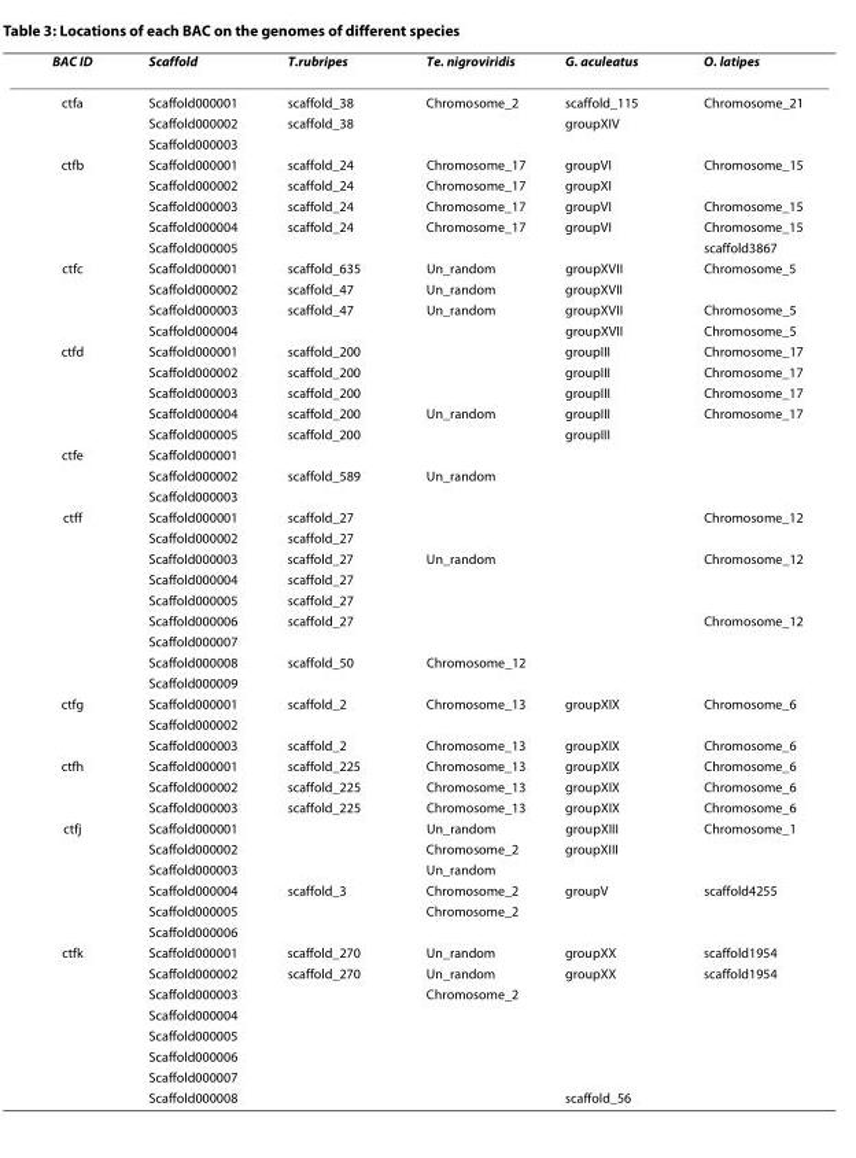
<table><thead><tr><td>BAC ID</td><td>Scaffold</td><td>T.rubripes</td><td>Te. nigroviridis</td><td>G. aculeatus</td><td>O. latipes</td></tr></thead><tbody><tr><td rowspan="3">ctfa</td><td>Scaffold000001</td><td>scaffold_38</td><td>Chromosome_2</td><td>scaffold_115</td><td>Chromosome_21</td></tr><tr><td>Scaffold000002</td><td>scaffold_38</td><td></td><td>groupXIV</td><td></td></tr><tr><td>Scaffold000003</td><td></td><td></td><td></td><td></td></tr><tr><td rowspan="5">ctfb</td><td>Scaffold000001</td><td>scaffold_24</td><td>Chromosome_17</td><td>groupVI</td><td>Chromosome_15</td></tr><tr><td>Scaffold000002</td><td>scaffold_24</td><td>Chromosome_17</td><td>groupXI</td><td></td></tr><tr><td>Scaffold000003</td><td>scaffold_24</td><td>Chromosome_17</td><td>groupVI</td><td>Chromosome_15</td></tr><tr><td>Scaffold000004</td><td>scaffold_24</td><td>Chromosome_17</td><td>groupVI</td><td>Chromosome_15</td></tr><tr><td>Scaffold000005</td><td></td><td></td><td></td><td>scaffold3867</td></tr><tr><td rowspan="4">ctfc</td><td>Scaffold000001</td><td>scaffold_635</td><td>Un_random</td><td>groupXVII</td><td>Chromosome_5</td></tr><tr><td>Scaffold000002</td><td>scaffold_47</td><td>Un_random</td><td>groupXVII</td><td></td></tr><tr><td>Scaffold000003</td><td>scaffold_47</td><td>Un_random</td><td>groupXVII</td><td>Chromosome_5</td></tr><tr><td>Scaffold000004</td><td></td><td></td><td>groupXVII</td><td>Chromosome_5</td></tr><tr><td rowspan="5">ctfd</td><td>Scaffold000001</td><td>scaffold_200</td><td></td><td>groupIII</td><td>Chromosome_17</td></tr><tr><td>Scaffold000002</td><td>scaffold_200</td><td></td><td>groupIII</td><td>Chromosome_17</td></tr><tr><td>Scaffold000003</td><td>scaffold_200</td><td></td><td>groupIII</td><td>Chromosome_17</td></tr><tr><td>Scaffold000004</td><td>scaffold_200</td><td>Un_random</td><td>groupIII</td><td>Chromosome_17</td></tr><tr><td>Scaffold000005</td><td>scaffold_200</td><td></td><td>groupIII</td><td></td></tr><tr><td rowspan="3">ctfe</td><td>Scaffold000001</td><td></td><td></td><td></td><td></td></tr><tr><td>Scaffold000002</td><td>scaffold_589</td><td>Un_random</td><td></td><td></td></tr><tr><td>Scaffold000003</td><td></td><td></td><td></td><td></td></tr><tr><td rowspan="9">ctff</td><td>Scaffold000001</td><td>scaffold_27</td><td></td><td></td><td>Chromosome_12</td></tr><tr><td>Scaffold000002</td><td>scaffold_27</td><td></td><td></td><td></td></tr><tr><td>Scaffold000003</td><td>scaffold_27</td><td>Un_random</td><td></td><td>Chromosome_12</td></tr><tr><td>Scaffold000004</td><td>scaffold_27</td><td></td><td></td><td></td></tr><tr><td>Scaffold000005</td><td>scaffold_27</td><td></td><td></td><td></td></tr><tr><td>Scaffold000006</td><td>scaffold_27</td><td></td><td></td><td>Chromosome_12</td></tr><tr><td>Scaffold000007</td><td></td><td></td><td></td><td></td></tr><tr><td>Scaffold000008</td><td>scaffold_50</td><td>Chromosome_12</td><td></td><td></td></tr><tr><td>Scaffold000009</td><td></td><td></td><td></td><td></td></tr><tr><td rowspan="3">ctfg</td><td>Scaffold000001</td><td>scaffold_2</td><td>Chromosome_13</td><td>groupXIX</td><td>Chromosome_6</td></tr><tr><td>Scaffold000002</td><td></td><td></td><td></td><td></td></tr><tr><td>Scaffold000003</td><td>scaffold_2</td><td>Chromosome_13</td><td>groupXIX</td><td>Chromosome_6</td></tr><tr><td rowspan="3">ctfh</td><td>Scaffold000001</td><td>scaffold_225</td><td>Chromosome_13</td><td>groupXIX</td><td>Chromosome_6</td></tr><tr><td>Scaffold000002</td><td>scaffold_225</td><td>Chromosome_13</td><td>groupXIX</td><td>Chromosome_6</td></tr><tr><td>Scaffold000003</td><td>scaffold_225</td><td>Chromosome_13</td><td>groupXIX</td><td>Chromosome_6</td></tr><tr><td rowspan="6">ctfj</td><td>Scaffold000001</td><td></td><td>Un_random</td><td>groupXIII</td><td>Chromosome_1</td></tr><tr><td>Scaffold000002</td><td></td><td>Chromosome_2</td><td>groupXIII</td><td></td></tr><tr><td>Scaffold000003</td><td></td><td>Un_random</td><td></td><td></td></tr><tr><td>Scaffold000004</td><td>scaffold_3</td><td>Chromosome_2</td><td>groupV</td><td>scaffold4255</td></tr><tr><td>Scaffold000005</td><td></td><td>Chromosome_2</td><td></td><td></td></tr><tr><td>Scaffold000006</td><td></td><td></td><td></td><td></td></tr><tr><td rowspan="8">ctfk</td><td>Scaffold000001</td><td>scaffold_270</td><td>Un_random</td><td>groupXX</td><td>scaffold1954</td></tr><tr><td>Scaffold000002</td><td>scaffold_270</td><td>Un_random</td><td>groupXX</td><td>scaffold1954</td></tr><tr><td>Scaffold000003</td><td></td><td>Chromosome_2</td><td></td><td></td></tr><tr><td>Scaffold000004</td><td></td><td></td><td></td><td></td></tr><tr><td>Scaffold000005</td><td></td><td></td><td></td><td></td></tr><tr><td>Scaffold000006</td><td></td><td></td><td></td><td></td></tr><tr><td>Scaffold000007</td><td></td><td></td><td></td><td></td></tr><tr><td>Scaffold000008</td><td></td><td></td><td>scaffold_56</td><td></td></tr></tbody></table>